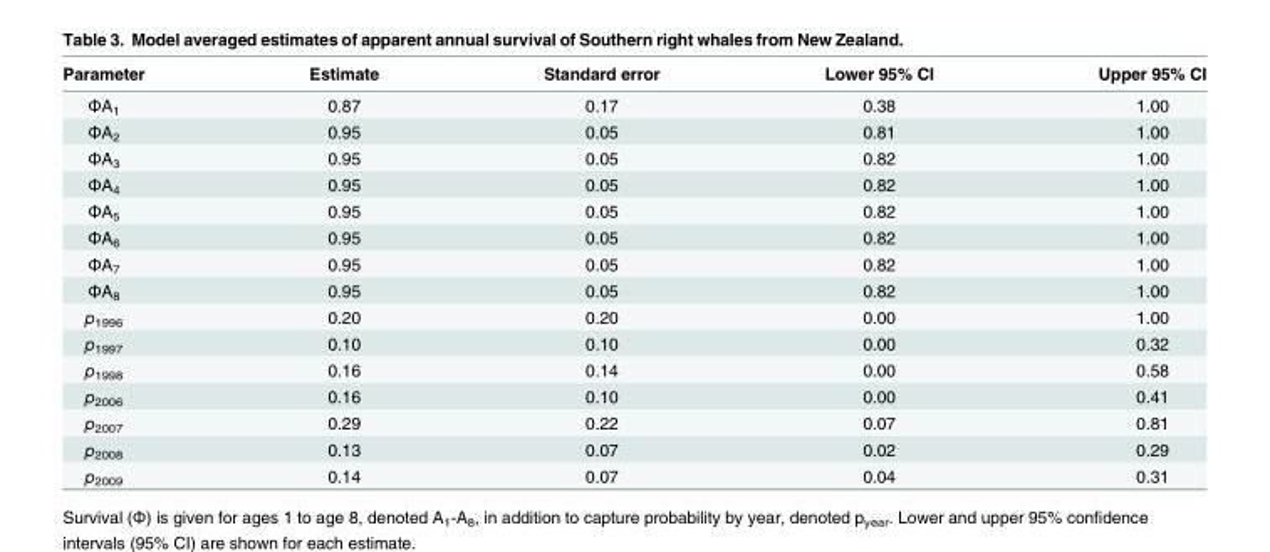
<table><thead><tr><td>Parameter</td><td>Estimate</td><td>Standard error</td><td>Lower 95% CI</td><td>Upper 95% CI</td></tr></thead><tbody><tr><td>ΦA<sub>1</sub></td><td>0.87</td><td>0.17</td><td>0.38</td><td>1.00</td></tr><tr><td>ΦA<sub>2</sub></td><td>0.95</td><td>0.05</td><td>0.81</td><td>1.00</td></tr><tr><td>ΦA<sub>3</sub></td><td>0.95</td><td>0.05</td><td>0.82</td><td>1.00</td></tr><tr><td>ΦA<sub>4</sub></td><td>0.95</td><td>0.05</td><td>0.82</td><td>1.00</td></tr><tr><td>ΦA<sub>5</sub></td><td>0.95</td><td>0.05</td><td>0.82</td><td>1.00</td></tr><tr><td>ΦA<sub>6</sub></td><td>0.95</td><td>0.05</td><td>0.82</td><td>1.00</td></tr><tr><td>ΦA<sub>7</sub></td><td>0.95</td><td>0.05</td><td>0.82</td><td>1.00</td></tr><tr><td>ΦA<sub>8</sub></td><td>0.95</td><td>0.05</td><td>0.82</td><td>1.00</td></tr><tr><td>p<sub>1996</sub></td><td>0.20</td><td>0.20</td><td>0.00</td><td>1.00</td></tr><tr><td>p<sub>1997</sub></td><td>0.10</td><td>0.10</td><td>0.00</td><td>0.32</td></tr><tr><td>p<sub>1998</sub></td><td>0.16</td><td>0.14</td><td>0.00</td><td>0.58</td></tr><tr><td>p<sub>2006</sub></td><td>0.16</td><td>0.10</td><td>0.00</td><td>0.41</td></tr><tr><td>p<sub>2007</sub></td><td>0.29</td><td>0.22</td><td>0.07</td><td>0.81</td></tr><tr><td>p<sub>2008</sub></td><td>0.13</td><td>0.07</td><td>0.02</td><td>0.29</td></tr><tr><td>p<sub>2009</sub></td><td>0.14</td><td>0.07</td><td>0.04</td><td>0.31</td></tr></tbody></table>